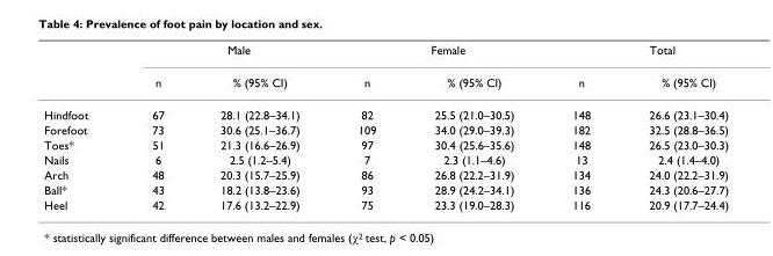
<table><thead><tr><td rowspan="2"></td><td colspan="2">Male</td><td colspan="2">Female</td><td colspan="2">Total</td></tr><tr><td>n</td><td>% (95% CI)</td><td>n</td><td>% (95% CI)</td><td>n</td><td>% (95% CI)</td></tr></thead><tbody><tr><td>Hindfoot</td><td>67</td><td>28.1 (22.8–34.1)</td><td>82</td><td>25.5 (21.0–30.5)</td><td>148</td><td>26.6 (23.1–30.4)</td></tr><tr><td>Forefoot</td><td>73</td><td>30.6 (25.1–36.7)</td><td>109</td><td>34.0 (29.0–39.3)</td><td>182</td><td>32.5 (28.8–36.5)</td></tr><tr><td>Toes*</td><td>51</td><td>21.3 (16.6–26.9)</td><td>97</td><td>30.4 (25.6–35.6)</td><td>148</td><td>26.5 (23.0–30.3)</td></tr><tr><td>Nails</td><td>6</td><td>2.5 (1.2–5.4)</td><td>7</td><td>2.3 (1.1–4.6)</td><td>13</td><td>2.4 (1.4–4.0)</td></tr><tr><td>Arch</td><td>48</td><td>20.3 (15.7–25.9)</td><td>86</td><td>26.8 (22.2–31.9)</td><td>134</td><td>24.0 (22.2–31.9)</td></tr><tr><td>Ball*</td><td>43</td><td>18.2 (13.8–23.6)</td><td>93</td><td>28.9 (24.2–34.1)</td><td>136</td><td>24.3 (20.6–27.7)</td></tr><tr><td>Heel</td><td>42</td><td>17.6 (13.2–22.9)</td><td>75</td><td>23.3 (19.0–28.3)</td><td>116</td><td>20.9 (17.7–24.4)</td></tr></tbody></table>